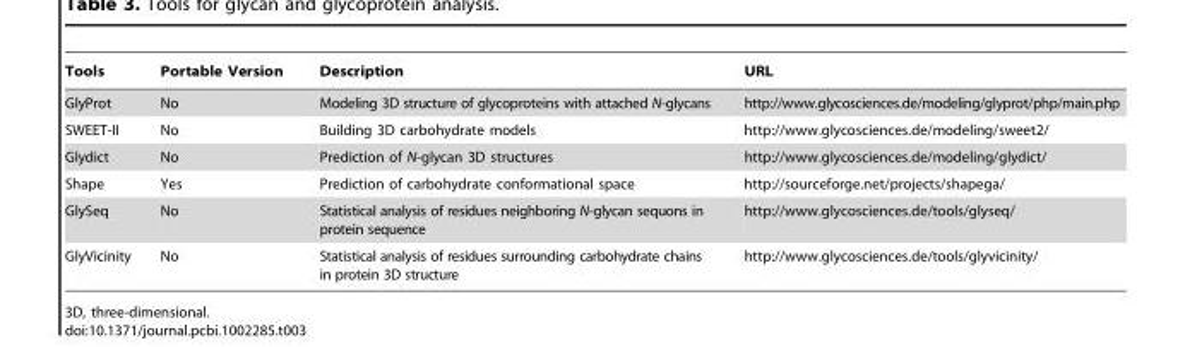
<table><thead><tr><td>Tools</td><td>Portable Version</td><td>Description</td><td>URL</td></tr></thead><tbody><tr><td>GlyProt</td><td>No</td><td>Modeling 3D structure of glycoproteins with attached N-glycans</td><td>http://www.glycosciences.de/modeling/glyprot/php/main.php</td></tr><tr><td>SWEET-II</td><td>No</td><td>Building 3D carbohydrate models</td><td>http://www.glycosciences.de/modeling/sweet2/</td></tr><tr><td>Glydict</td><td>No</td><td>Prediction of N-glycan 3D structures</td><td>http://www.glycosciences.de/modeling/glydict/</td></tr><tr><td>Shape</td><td>Yes</td><td>Prediction of carbohydrate conformational space</td><td>http://sourceforge.net/projects/shapega/</td></tr><tr><td>GlySeq</td><td>No</td><td>Statistical analysis of residues neighboring N-glycan sequons in protein sequence</td><td>http://www.glycosciences.de/tools/glyseq/</td></tr><tr><td>GlyVicinity</td><td>No</td><td>Statistical analysis of residues surrounding carbohydrate chains in protein 3D structure</td><td>http://www.glycosciences.de/tools/glyvicinity/</td></tr></tbody></table>